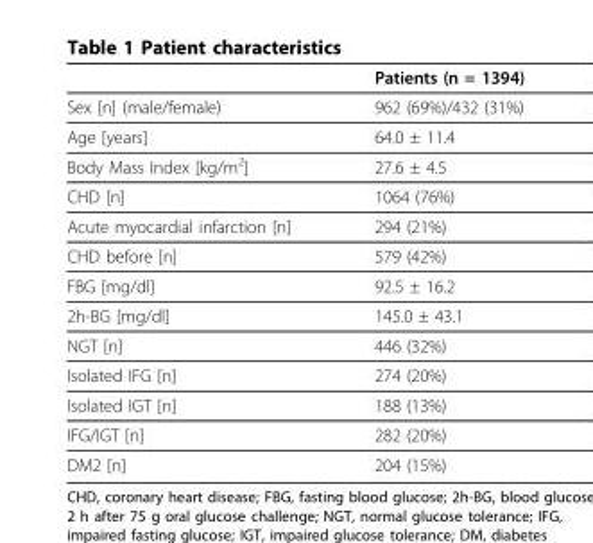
<table><thead><tr><td></td><td>Patients (n = 1394)</td></tr></thead><tbody><tr><td>Sex [n] (male/female)</td><td>962 (69%)/432 (31%)</td></tr><tr><td>Age [years]</td><td>64.0 ± 11.4</td></tr><tr><td>Body Mass Index [kg/m<sup>2</sup>]</td><td>27.6 ± 4.5</td></tr><tr><td>CHD [n]</td><td>1064 (76%)</td></tr><tr><td>Acute myocardial infarction [n]</td><td>294 (21%)</td></tr><tr><td>CHD before [n]</td><td>579 (42%)</td></tr><tr><td>FBG [mg/dl]</td><td>92.5 ± 16.2</td></tr><tr><td>2h-BG [mg/dl]</td><td>145.0 ± 43.1</td></tr><tr><td>NGT [n]</td><td>446 (32%)</td></tr><tr><td>Isolated IFG [n]</td><td>274 (20%)</td></tr><tr><td>Isolated IGT [n]</td><td>188 (13%)</td></tr><tr><td>IFG/IGT [n]</td><td>282 (20%)</td></tr><tr><td>DM2 [n]</td><td>204 (15%)</td></tr></tbody></table>